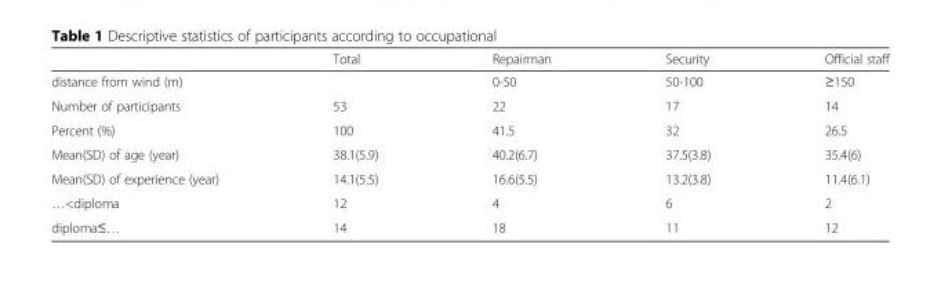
<table><thead><tr><td></td><td>Total</td><td>Repairman</td><td>Security</td><td>Official staff</td></tr></thead><tbody><tr><td>distance from wind (m)</td><td></td><td>0-50</td><td>50-100</td><td>≥150</td></tr><tr><td>Number of participants</td><td>53</td><td>22</td><td>17</td><td>14</td></tr><tr><td>Percent (%)</td><td>100</td><td>41.5</td><td>32</td><td>26.5</td></tr><tr><td>Mean(SD) of age (year)</td><td>38.1(5.9)</td><td>40.2(6.7)</td><td>37.5(3.8)</td><td>35.4(6)</td></tr><tr><td>Mean(SD) of experience (year)</td><td>14.1(5.5)</td><td>16.6(5.5)</td><td>13.2(3.8)</td><td>11.4(6.1)</td></tr><tr><td>…&lt;diploma</td><td>12</td><td>4</td><td>6</td><td>2</td></tr><tr><td>diploma≤…</td><td>14</td><td>18</td><td>11</td><td>12</td></tr></tbody></table>